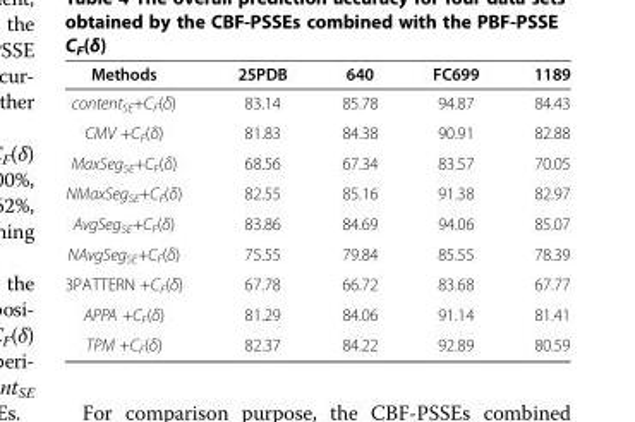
<table><thead><tr><td>Methods</td><td>25PDB</td><td>640</td><td>FC699</td><td>1189</td></tr></thead><tbody><tr><td>content<sub>SE</sub>+C<sub>F</sub>(δ)</td><td>83.14</td><td>85.78</td><td>94.87</td><td>84.43</td></tr><tr><td>CMV +C<sub>F</sub>(δ)</td><td>81.83</td><td>84.38</td><td>90.91</td><td>82.88</td></tr><tr><td>MaxSeg<sub>SE</sub>+C<sub>F</sub>(δ)</td><td>68.56</td><td>67.34</td><td>83.57</td><td>70.05</td></tr><tr><td>NMaxSeg<sub>SE</sub>+C<sub>F</sub>(δ)</td><td>82.55</td><td>85.16</td><td>91.38</td><td>82.97</td></tr><tr><td>AvgSeg<sub>SE</sub>+C<sub>F</sub>(δ)</td><td>83.86</td><td>84.69</td><td>94.06</td><td>85.07</td></tr><tr><td>NAvgSeg<sub>SE</sub>+C<sub>F</sub>(δ)</td><td>75.55</td><td>79.84</td><td>85.55</td><td>78.39</td></tr><tr><td>3PATTERN +C<sub>F</sub>(δ)</td><td>67.78</td><td>66.72</td><td>83.68</td><td>67.77</td></tr><tr><td>APPA +C<sub>F</sub>(δ)</td><td>81.29</td><td>84.06</td><td>91.14</td><td>81.41</td></tr><tr><td>TPM +C<sub>F</sub>(δ)</td><td>82.37</td><td>84.22</td><td>92.89</td><td>80.59</td></tr></tbody></table>